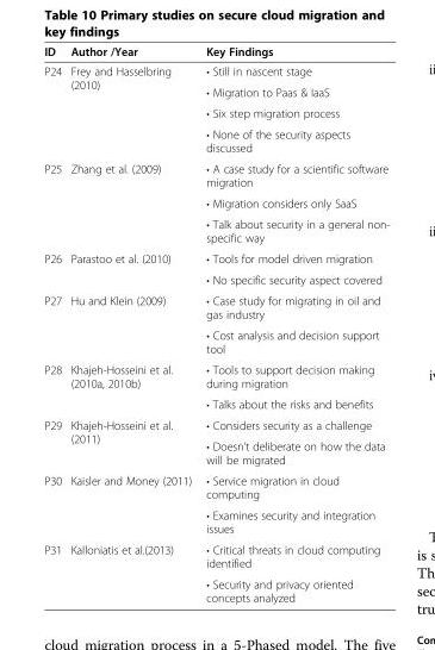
<table><thead><tr><td>ID</td><td>Author /Year</td><td>Key Findings</td></tr></thead><tbody><tr><td rowspan="4">P24</td><td rowspan="4">Frey and Hasselbring (2010)</td><td>• Still in nascent stage</td></tr><tr><td>• Migration to Paas &amp; IaaS</td></tr><tr><td>• Six step migration process</td></tr><tr><td>• None of the security aspects discussed</td></tr><tr><td rowspan="3">P25</td><td rowspan="3">Zhang et al. (2009)</td><td>• A case study for a scientific software migration</td></tr><tr><td>• Migration considers only SaaS</td></tr><tr><td>• Talk about security in a general non- specific way</td></tr><tr><td rowspan="2">P26</td><td rowspan="2">Parastoo et al. (2010)</td><td>• Tools for model driven migration</td></tr><tr><td>• No specific security aspect covered</td></tr><tr><td rowspan="2">P27</td><td rowspan="2">Hu and Klein (2009)</td><td>• Case study for migrating in oil and gas industry</td></tr><tr><td>• Cost analysis and decision support tool</td></tr><tr><td rowspan="2">P28</td><td rowspan="2">Khajeh-Hosseini et al. (2010a, 2010b)</td><td>• Tools to support decision making during migration</td></tr><tr><td>• Talks about the risks and benefits</td></tr><tr><td rowspan="2">P29</td><td rowspan="2">Khajeh-Hosseini et al. (2011)</td><td>• Considers security as a challenge</td></tr><tr><td>• Doesn’t deliberate on how the data will be migrated</td></tr><tr><td rowspan="2">P30</td><td rowspan="2">Kaisler and Money (2011)</td><td>• Service migration in cloud computing</td></tr><tr><td>• Examines security and integration issues</td></tr><tr><td rowspan="2">P31</td><td rowspan="2">Kalloniatis et al.(2013)</td><td>• Critical threats in cloud computing identified</td></tr><tr><td>• Security and privacy oriented concepts analyzed</td></tr></tbody></table>